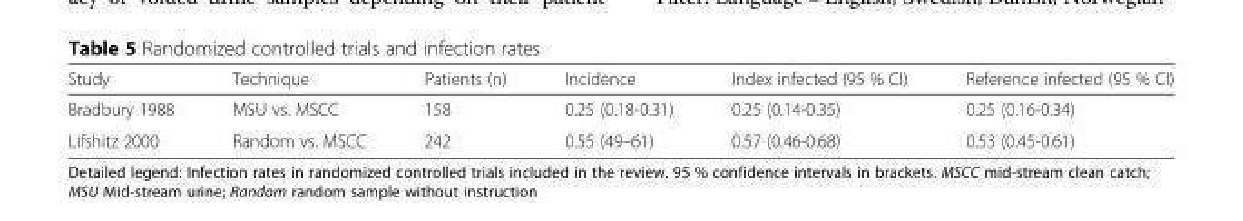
<table><thead><tr><td>Study</td><td>Technique</td><td>Patients (n)</td><td>Incidence</td><td>Index infected (95 % CI)</td><td>Reference infected (95 % CI)</td></tr></thead><tbody><tr><td>Bradbury 1988</td><td>MSU vs. MSCC</td><td>158</td><td>0.25 (0.18-0.31)</td><td>0.25 (0.14-0.35)</td><td>0.25 (0.16-0.34)</td></tr><tr><td>Lifshitz 2000</td><td>Random vs. MSCC</td><td>242</td><td>0.55 (49–61)</td><td>0.57 (0.46-0.68)</td><td>0.53 (0.45-0.61)</td></tr></tbody></table>